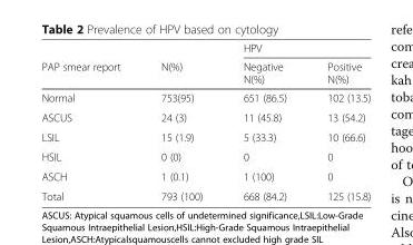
<table><thead><tr><td rowspan="2">PAP smear report</td><td rowspan="2">N(%)</td><td colspan="2">HPV</td></tr><tr><td>Negative N(%)</td><td>Positive N(%)</td></tr></thead><tbody><tr><td>Normal</td><td>753(95)</td><td>651 (86.5)</td><td>102 (13.5)</td></tr><tr><td>ASCUS</td><td>24 (3)</td><td>11 (45.8)</td><td>13 (54.2)</td></tr><tr><td>LSIL</td><td>15 (1.9)</td><td>5 (33.3)</td><td>10 (66.6)</td></tr><tr><td>HSIL</td><td>0 (0)</td><td>0</td><td>0</td></tr><tr><td>ASCH</td><td>1 (0.1)</td><td>1 (100)</td><td>0</td></tr><tr><td>Total</td><td>793 (100)</td><td>668 (84.2)</td><td>125 (15.8)</td></tr></tbody></table>